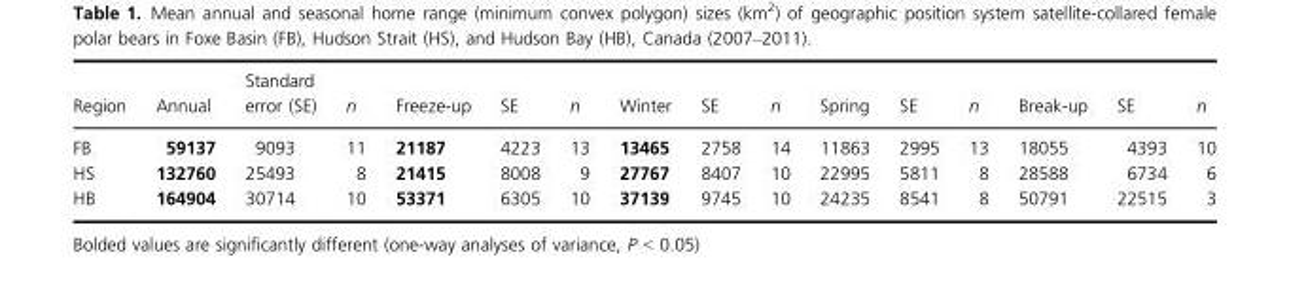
<table><thead><tr><td>Region</td><td>Annual</td><td>Standard error (SE)</td><td>n</td><td>Freeze-up</td><td>SE</td><td>n</td><td>Winter</td><td>SE</td><td>n</td><td>Spring</td><td>SE</td><td>n</td><td>Break-up</td><td>SE</td><td>n</td></tr></thead><tbody><tr><td>FB</td><td>59137</td><td>9093</td><td>11</td><td>21187</td><td>4223</td><td>13</td><td>13465</td><td>2758</td><td>14</td><td>11863</td><td>2995</td><td>13</td><td>18055</td><td>4393</td><td>10</td></tr><tr><td>HS</td><td>132760</td><td>25493</td><td>8</td><td>21415</td><td>8008</td><td>9</td><td>27767</td><td>8407</td><td>10</td><td>22995</td><td>5811</td><td>8</td><td>28588</td><td>6734</td><td>6</td></tr><tr><td>HB</td><td>164904</td><td>30714</td><td>10</td><td>53371</td><td>6305</td><td>10</td><td>37139</td><td>9745</td><td>10</td><td>24235</td><td>8541</td><td>8</td><td>50791</td><td>22515</td><td>3</td></tr></tbody></table>